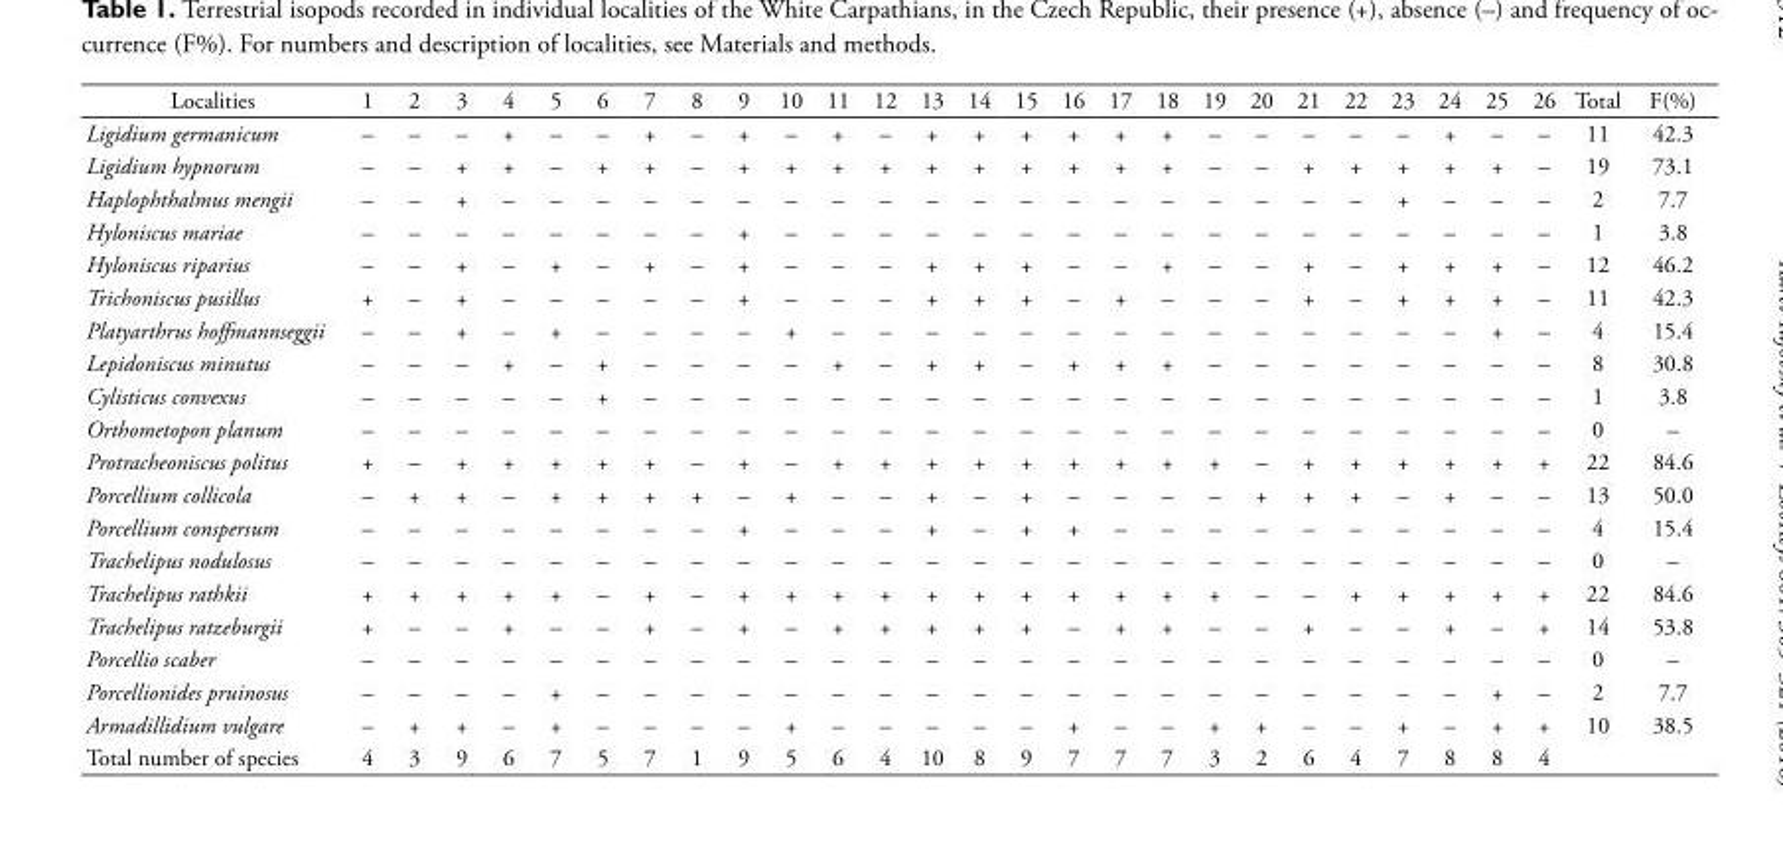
<table><thead><tr><td>Localities</td><td>1</td><td>2</td><td>3</td><td>4</td><td>5</td><td>6</td><td>7</td><td>8</td><td>9</td><td>10</td><td>11</td><td>12</td><td>13</td><td>14</td><td>15</td><td>16</td><td>17</td><td>18</td><td>19</td><td>20</td><td>21</td><td>22</td><td>23</td><td>24</td><td>25</td><td>26</td><td>Total</td><td>F(%)</td></tr></thead><tbody><tr><td>Ligidium germanicum</td><td>–</td><td>–</td><td>–</td><td>+</td><td>–</td><td>–</td><td>+</td><td>–</td><td>+</td><td>–</td><td>+</td><td>–</td><td>+</td><td>+</td><td>+</td><td>+</td><td>+</td><td>+</td><td>–</td><td>–</td><td>–</td><td>–</td><td>–</td><td>+</td><td>–</td><td>–</td><td>11</td><td>42.3</td></tr><tr><td>Ligidium hypnorum</td><td>–</td><td>–</td><td>+</td><td>+</td><td>–</td><td>+</td><td>+</td><td>–</td><td>+</td><td>+</td><td>+</td><td>+</td><td>+</td><td>+</td><td>+</td><td>+</td><td>+</td><td>+</td><td>–</td><td>–</td><td>+</td><td>+</td><td>+</td><td>+</td><td>+</td><td>–</td><td>19</td><td>73.1</td></tr><tr><td>Haplophthalmus mengii</td><td>–</td><td>–</td><td>+</td><td>–</td><td>–</td><td>–</td><td>–</td><td>–</td><td>–</td><td>–</td><td>–</td><td>–</td><td>–</td><td>–</td><td>–</td><td>–</td><td>–</td><td>–</td><td>–</td><td>–</td><td>–</td><td>–</td><td>+</td><td>–</td><td>–</td><td>–</td><td>2</td><td>7.7</td></tr><tr><td>Hyloniscus mariae</td><td>–</td><td>–</td><td>–</td><td>–</td><td>–</td><td>–</td><td>–</td><td>–</td><td>+</td><td>–</td><td>–</td><td>–</td><td>–</td><td>–</td><td>–</td><td>–</td><td>–</td><td>–</td><td>–</td><td>–</td><td>–</td><td>–</td><td>–</td><td>–</td><td>–</td><td>–</td><td>1</td><td>3.8</td></tr><tr><td>Hyloniscus riparius</td><td>–</td><td>–</td><td>+</td><td>–</td><td>+</td><td>–</td><td>+</td><td>–</td><td>+</td><td>–</td><td>–</td><td>–</td><td>+</td><td>+</td><td>+</td><td>–</td><td>–</td><td>+</td><td>–</td><td>–</td><td>+</td><td>–</td><td>+</td><td>+</td><td>+</td><td>–</td><td>12</td><td>46.2</td></tr><tr><td>Trichoniscus pusillus</td><td>+</td><td>–</td><td>+</td><td>–</td><td>–</td><td>–</td><td>–</td><td>–</td><td>+</td><td>–</td><td>–</td><td>–</td><td>+</td><td>+</td><td>+</td><td>–</td><td>+</td><td>–</td><td>–</td><td>–</td><td>+</td><td>–</td><td>+</td><td>+</td><td>+</td><td>–</td><td>11</td><td>42.3</td></tr><tr><td>Platyarthrus hoffmannseggii</td><td>–</td><td>–</td><td>+</td><td>–</td><td>+</td><td>–</td><td>–</td><td>–</td><td>–</td><td>+</td><td>–</td><td>–</td><td>–</td><td>–</td><td>–</td><td>–</td><td>–</td><td>–</td><td>–</td><td>–</td><td>–</td><td>–</td><td>–</td><td>–</td><td>+</td><td>–</td><td>4</td><td>15.4</td></tr><tr><td>Lepidoniscus minutus</td><td>–</td><td>–</td><td>–</td><td>+</td><td>–</td><td>+</td><td>–</td><td>–</td><td>–</td><td>–</td><td>+</td><td>–</td><td>+</td><td>+</td><td>–</td><td>+</td><td>+</td><td>+</td><td>–</td><td>–</td><td>–</td><td>–</td><td>–</td><td>–</td><td>–</td><td>–</td><td>8</td><td>30.8</td></tr><tr><td>Cylisticus convexus</td><td>–</td><td>–</td><td>–</td><td>–</td><td>–</td><td>+</td><td>–</td><td>–</td><td>–</td><td>–</td><td>–</td><td>–</td><td>–</td><td>–</td><td>–</td><td>–</td><td>–</td><td>–</td><td>–</td><td>–</td><td>–</td><td>–</td><td>–</td><td>–</td><td>–</td><td>–</td><td>1</td><td>3.8</td></tr><tr><td>Orthometopon planum</td><td>–</td><td>–</td><td>–</td><td>–</td><td>–</td><td>–</td><td>–</td><td>–</td><td>–</td><td>–</td><td>–</td><td>–</td><td>–</td><td>–</td><td>–</td><td>–</td><td>–</td><td>–</td><td>–</td><td>–</td><td>–</td><td>–</td><td>–</td><td>–</td><td>–</td><td>–</td><td>0</td><td>–</td></tr><tr><td>Protracheoniscus politus</td><td>+</td><td>–</td><td>+</td><td>+</td><td>+</td><td>+</td><td>+</td><td>–</td><td>+</td><td>–</td><td>+</td><td>+</td><td>+</td><td>+</td><td>+</td><td>+</td><td>+</td><td>+</td><td>+</td><td>–</td><td>+</td><td>+</td><td>+</td><td>+</td><td>+</td><td>+</td><td>22</td><td>84.6</td></tr><tr><td>Porcellium collicola</td><td>–</td><td>+</td><td>+</td><td>–</td><td>+</td><td>+</td><td>+</td><td>+</td><td>–</td><td>+</td><td>–</td><td>–</td><td>+</td><td>–</td><td>+</td><td>–</td><td>–</td><td>–</td><td>–</td><td>+</td><td>+</td><td>+</td><td>–</td><td>+</td><td>–</td><td>–</td><td>13</td><td>50.0</td></tr><tr><td>Porcellium conspersum</td><td>–</td><td>–</td><td>–</td><td>–</td><td>–</td><td>–</td><td>–</td><td>–</td><td>+</td><td>–</td><td>–</td><td>–</td><td>+</td><td>–</td><td>+</td><td>+</td><td>–</td><td>–</td><td>–</td><td>–</td><td>–</td><td>–</td><td>–</td><td>–</td><td>–</td><td>–</td><td>4</td><td>15.4</td></tr><tr><td>Trachelipus nodulosus</td><td>–</td><td>–</td><td>–</td><td>–</td><td>–</td><td>–</td><td>–</td><td>–</td><td>–</td><td>–</td><td>–</td><td>–</td><td>–</td><td>–</td><td>–</td><td>–</td><td>–</td><td>–</td><td>–</td><td>–</td><td>–</td><td>–</td><td>–</td><td>–</td><td>–</td><td>–</td><td>0</td><td>–</td></tr><tr><td>Trachelipus rathkii</td><td>+</td><td>+</td><td>+</td><td>+</td><td>+</td><td>–</td><td>+</td><td>–</td><td>+</td><td>+</td><td>+</td><td>+</td><td>+</td><td>+</td><td>+</td><td>+</td><td>+</td><td>+</td><td>+</td><td>–</td><td>–</td><td>+</td><td>+</td><td>+</td><td>+</td><td>+</td><td>22</td><td>84.6</td></tr><tr><td>Trachelipus ratzeburgii</td><td>+</td><td>–</td><td>–</td><td>+</td><td>–</td><td>–</td><td>+</td><td>–</td><td>+</td><td>–</td><td>+</td><td>+</td><td>+</td><td>+</td><td>+</td><td>–</td><td>+</td><td>+</td><td>–</td><td>–</td><td>+</td><td>–</td><td>–</td><td>+</td><td>–</td><td>+</td><td>14</td><td>53.8</td></tr><tr><td>Porcellio scaber</td><td>–</td><td>–</td><td>–</td><td>–</td><td>–</td><td>–</td><td>–</td><td>–</td><td>–</td><td>–</td><td>–</td><td>–</td><td>–</td><td>–</td><td>–</td><td>–</td><td>–</td><td>–</td><td>–</td><td>–</td><td>–</td><td>–</td><td>–</td><td>–</td><td>–</td><td>–</td><td>0</td><td>–</td></tr><tr><td>Porcellionides pruinosus</td><td>–</td><td>–</td><td>–</td><td>–</td><td>+</td><td>–</td><td>–</td><td>–</td><td>–</td><td>–</td><td>–</td><td>–</td><td>–</td><td>–</td><td>–</td><td>–</td><td>–</td><td>–</td><td>–</td><td>–</td><td>–</td><td>–</td><td>–</td><td>–</td><td>+</td><td>–</td><td>2</td><td>7.7</td></tr><tr><td>Armadillidium vulgare</td><td>–</td><td>+</td><td>+</td><td>–</td><td>+</td><td>–</td><td>–</td><td>–</td><td>–</td><td>+</td><td>–</td><td>–</td><td>–</td><td>–</td><td>–</td><td>+</td><td>–</td><td>–</td><td>+</td><td>+</td><td>–</td><td>–</td><td>+</td><td>–</td><td>+</td><td>+</td><td>10</td><td>38.5</td></tr><tr><td>Total number of species</td><td>4</td><td>3</td><td>9</td><td>6</td><td>7</td><td>5</td><td>7</td><td>1</td><td>9</td><td>5</td><td>6</td><td>4</td><td>10</td><td>8</td><td>9</td><td>7</td><td>7</td><td>7</td><td>3</td><td>2</td><td>6</td><td>4</td><td>7</td><td>8</td><td>8</td><td>4</td><td></td><td></td></tr></tbody></table>